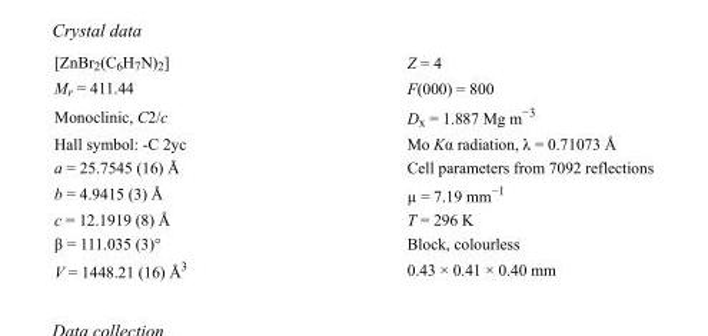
<table><tbody><tr><td>[ZnBr<sub>2</sub>(C<sub>6</sub>H<sub>7</sub>N)<sub>2</sub>]</td><td>Z = 4</td></tr><tr><td>M<sub>r</sub> = 411.44</td><td>F(000) = 800</td></tr><tr><td>Monoclinic, C2/c</td><td>D<sub>x</sub> = 1.887 Mg m<sup>−3</sup></td></tr><tr><td>Hall symbol: -C 2yc</td><td>Mo Kα radiation, λ = 0.71073 Å</td></tr><tr><td>a = 25.7545 (16) Å</td><td>Cell parameters from 7092 reflections</td></tr><tr><td>b = 4.9415 (3) Å</td><td>µ = 7.19 mm<sup>−1</sup></td></tr><tr><td>c = 12.1919 (8) Å</td><td>T = 296 K</td></tr><tr><td>β = 111.035 (3)°</td><td>Block, colourless</td></tr><tr><td>V = 1448.21 (16) Å<sup>3</sup></td><td>0.43 × 0.41 × 0.40 mm</td></tr></tbody></table>